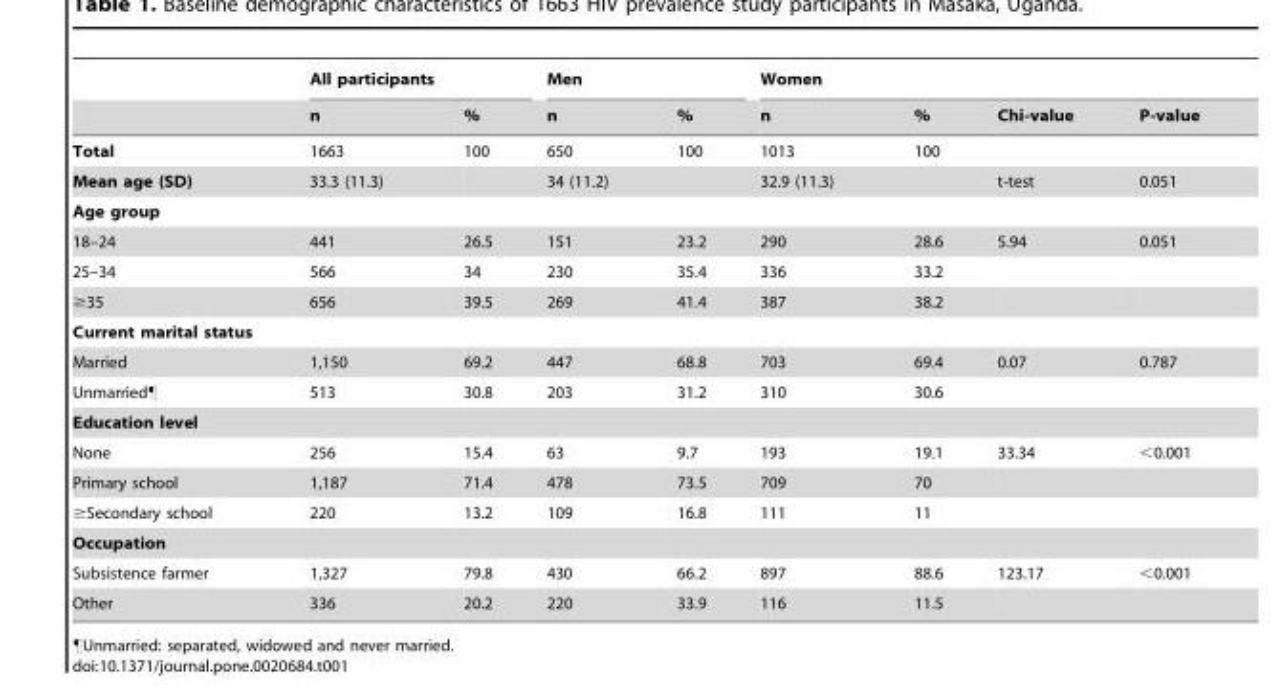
<table><thead><tr><td rowspan="2"></td><td colspan="2">All participants</td><td colspan="2">Men</td><td colspan="4">Women</td></tr><tr><td>n</td><td>%</td><td>n</td><td>%</td><td>n</td><td>%</td><td>Chi-value</td><td>P-value</td></tr></thead><tbody><tr><td>Total</td><td>1663</td><td>100</td><td>650</td><td>100</td><td>1013</td><td>100</td><td></td><td></td></tr><tr><td>Mean age (SD)</td><td>33.3 (11.3)</td><td></td><td>34 (11.2)</td><td></td><td>32.9 (11.3)</td><td></td><td>t-test</td><td>0.051</td></tr><tr><td colspan="9">Age group</td></tr><tr><td>18–24</td><td>441</td><td>26.5</td><td>151</td><td>23.2</td><td>290</td><td>28.6</td><td>5.94</td><td>0.051</td></tr><tr><td>25–34</td><td>566</td><td>34</td><td>230</td><td>35.4</td><td>336</td><td>33.2</td><td></td><td></td></tr><tr><td>≥35</td><td>656</td><td>39.5</td><td>269</td><td>41.4</td><td>387</td><td>38.2</td><td></td><td></td></tr><tr><td colspan="9">Current marital status</td></tr><tr><td>Married</td><td>1,150</td><td>69.2</td><td>447</td><td>68.8</td><td>703</td><td>69.4</td><td>0.07</td><td>0.787</td></tr><tr><td>Unmarried¶</td><td>513</td><td>30.8</td><td>203</td><td>31.2</td><td>310</td><td>30.6</td><td></td><td></td></tr><tr><td colspan="9">Education level</td></tr><tr><td>None</td><td>256</td><td>15.4</td><td>63</td><td>9.7</td><td>193</td><td>19.1</td><td>33.34</td><td>&lt;0.001</td></tr><tr><td>Primary school</td><td>1,187</td><td>71.4</td><td>478</td><td>73.5</td><td>709</td><td>70</td><td></td><td></td></tr><tr><td>≥Secondary school</td><td>220</td><td>13.2</td><td>109</td><td>16.8</td><td>111</td><td>11</td><td></td><td></td></tr><tr><td colspan="9">Occupation</td></tr><tr><td>Subsistence farmer</td><td>1,327</td><td>79.8</td><td>430</td><td>66.2</td><td>897</td><td>88.6</td><td>123.17</td><td>&lt;0.001</td></tr><tr><td>Other</td><td>336</td><td>20.2</td><td>220</td><td>33.9</td><td>116</td><td>11.5</td><td></td><td></td></tr></tbody></table>